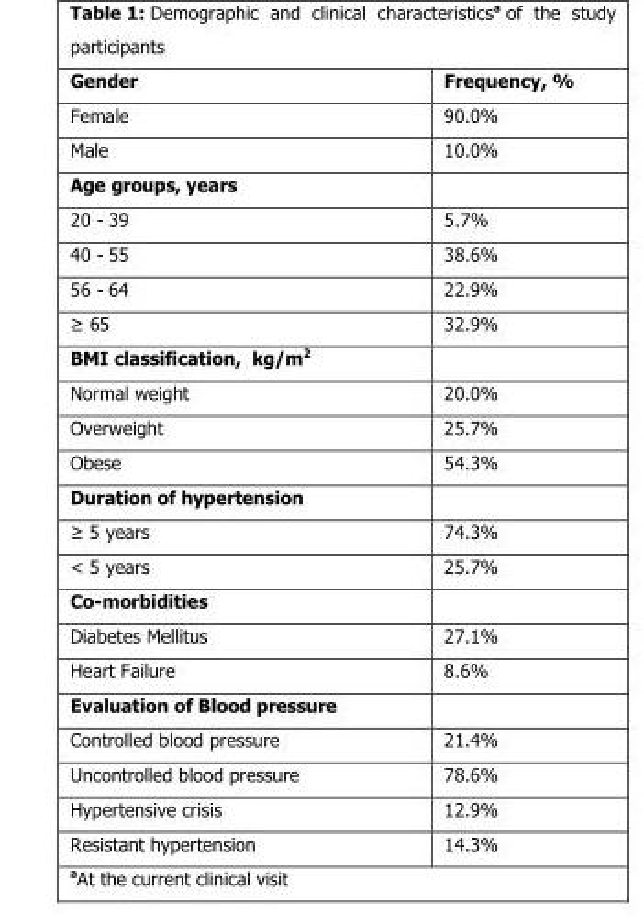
<table><thead><tr><td>Gender</td><td>Frequency, %</td></tr></thead><tbody><tr><td>Female</td><td>90.0%</td></tr><tr><td>Male</td><td>10.0%</td></tr><tr><td colspan="2">Age groups, years</td></tr><tr><td>20 - 39</td><td>5.7%</td></tr><tr><td>40 - 55</td><td>38.6%</td></tr><tr><td>56 - 64</td><td>22.9%</td></tr><tr><td>≥ 65</td><td>32.9%</td></tr><tr><td colspan="2">BMI classification, kg/m<sup>2</sup></td></tr><tr><td>Normal weight</td><td>20.0%</td></tr><tr><td>Overweight</td><td>25.7%</td></tr><tr><td>Obese</td><td>54.3%</td></tr><tr><td colspan="2">Duration of hypertension</td></tr><tr><td>≥ 5 years</td><td>74.3%</td></tr><tr><td>&lt; 5 years</td><td>25.7%</td></tr><tr><td colspan="2">Co-morbidities</td></tr><tr><td>Diabetes Mellitus</td><td>27.1%</td></tr><tr><td>Heart Failure</td><td>8.6%</td></tr><tr><td colspan="2">Evaluation of Blood pressure</td></tr><tr><td>Controlled blood pressure</td><td>21.4%</td></tr><tr><td>Uncontrolled blood pressure</td><td>78.6%</td></tr><tr><td>Hypertensive crisis</td><td>12.9%</td></tr><tr><td>Resistant hypertension</td><td>14.3%</td></tr></tbody></table>